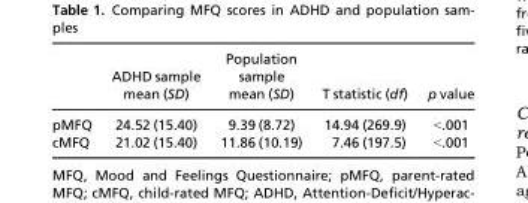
<table><thead><tr><td></td><td>ADHD sample mean (SD)</td><td>Population sample mean (SD)</td><td>T statistic (df)</td><td>p value</td></tr></thead><tbody><tr><td>pMFQ</td><td>24.52 (15.40)</td><td>9.39 (8.72)</td><td>14.94 (269.9)</td><td>&lt;.001</td></tr><tr><td>cMFQ</td><td>21.02 (15.40)</td><td>11.86 (10.19)</td><td>7.46 (197.5)</td><td>&lt;.001</td></tr></tbody></table>